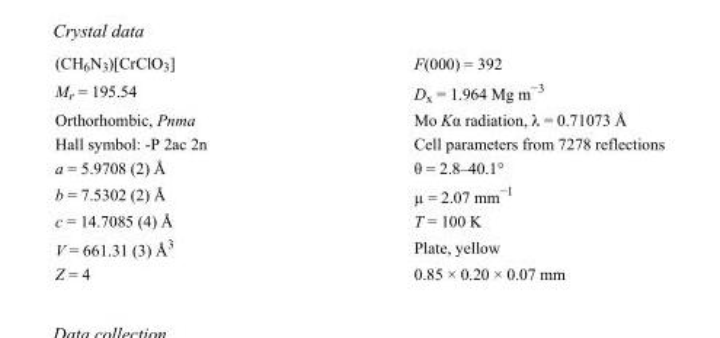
<table><tbody><tr><td>(CH<sub>6</sub>N<sub>3</sub>)[CrClO<sub>3</sub>]</td><td>F(000) = 392</td></tr><tr><td>M<sub>r</sub> = 195.54</td><td>D<sub>x</sub> = 1.964 Mg m<sup>−3</sup></td></tr><tr><td>Orthorhombic, Pnma</td><td>Mo Kα radiation, λ = 0.71073 Å</td></tr><tr><td>Hall symbol: -P 2ac 2n</td><td>Cell parameters from 7278 reflections</td></tr><tr><td>a = 5.9708 (2) Å</td><td>θ = 2.8–40.1°</td></tr><tr><td>b = 7.5302 (2) Å</td><td>µ = 2.07 mm<sup>−1</sup></td></tr><tr><td>c = 14.7085 (4) Å</td><td>T = 100 K</td></tr><tr><td>V = 661.31 (3) Å<sup>3</sup></td><td>Plate, yellow</td></tr><tr><td>Z = 4</td><td>0.85 × 0.20 × 0.07 mm</td></tr></tbody></table>